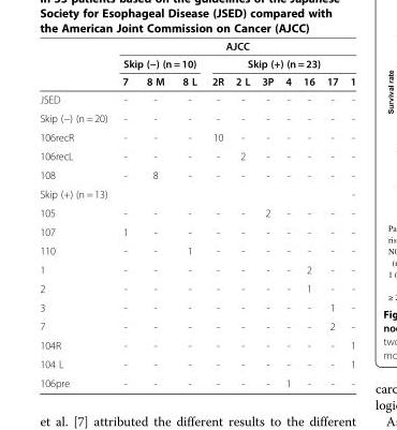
<table><thead><tr><td rowspan="3"></td><td colspan="10">AJCC</td></tr><tr><td colspan="3">Skip (−) (n = 10)</td><td colspan="7">Skip (+) (n = 23)</td></tr><tr><td>7</td><td>8 M</td><td>8 L</td><td>2R</td><td>2 L</td><td>3P</td><td>4</td><td>16</td><td>17</td><td>1</td></tr></thead><tbody><tr><td>JSED</td><td>-</td><td>-</td><td>-</td><td>-</td><td>-</td><td>-</td><td>-</td><td>-</td><td>-</td><td>-</td></tr><tr><td>Skip (−) (n = 20)</td><td>-</td><td>-</td><td>-</td><td>-</td><td>-</td><td>-</td><td>-</td><td>-</td><td>-</td><td>-</td></tr><tr><td>106recR</td><td>-</td><td>-</td><td>-</td><td>10</td><td>-</td><td>-</td><td>-</td><td>-</td><td>-</td><td>-</td></tr><tr><td>106recL</td><td>-</td><td>-</td><td>-</td><td>-</td><td>2</td><td>-</td><td>-</td><td>-</td><td>-</td><td>-</td></tr><tr><td>108</td><td>-</td><td>8</td><td>-</td><td>-</td><td>-</td><td>-</td><td>-</td><td>-</td><td>-</td><td>-</td></tr><tr><td>Skip (+) (n = 13)</td><td></td><td></td><td></td><td></td><td></td><td></td><td></td><td></td><td></td><td>-</td></tr><tr><td>105</td><td>-</td><td>-</td><td>-</td><td>-</td><td>-</td><td>2</td><td>-</td><td>-</td><td>-</td><td>-</td></tr><tr><td>107</td><td>1</td><td>-</td><td>-</td><td>-</td><td>-</td><td>-</td><td>-</td><td>-</td><td>-</td><td>-</td></tr><tr><td>110</td><td>-</td><td>-</td><td>1</td><td>-</td><td>-</td><td>-</td><td>-</td><td>-</td><td>-</td><td>-</td></tr><tr><td>1</td><td>-</td><td>-</td><td>-</td><td>-</td><td>-</td><td>-</td><td>-</td><td>2</td><td>-</td><td>-</td></tr><tr><td>2</td><td>-</td><td>-</td><td>-</td><td>-</td><td>-</td><td>-</td><td>-</td><td>1</td><td>-</td><td>-</td></tr><tr><td>3</td><td>-</td><td>-</td><td>-</td><td>-</td><td>-</td><td>-</td><td>-</td><td>-</td><td>1</td><td>-</td></tr><tr><td>7</td><td>-</td><td>-</td><td>-</td><td>-</td><td>-</td><td>-</td><td>-</td><td>-</td><td>2</td><td>-</td></tr><tr><td>104R</td><td>-</td><td>-</td><td>-</td><td>-</td><td>-</td><td>-</td><td>-</td><td>-</td><td>-</td><td>1</td></tr><tr><td>104 L</td><td>-</td><td>-</td><td>-</td><td>-</td><td>-</td><td>-</td><td>-</td><td>-</td><td>-</td><td>1</td></tr><tr><td>106pre</td><td>-</td><td>-</td><td>-</td><td>-</td><td>-</td><td>-</td><td>1</td><td>-</td><td>-</td><td>-</td></tr></tbody></table>